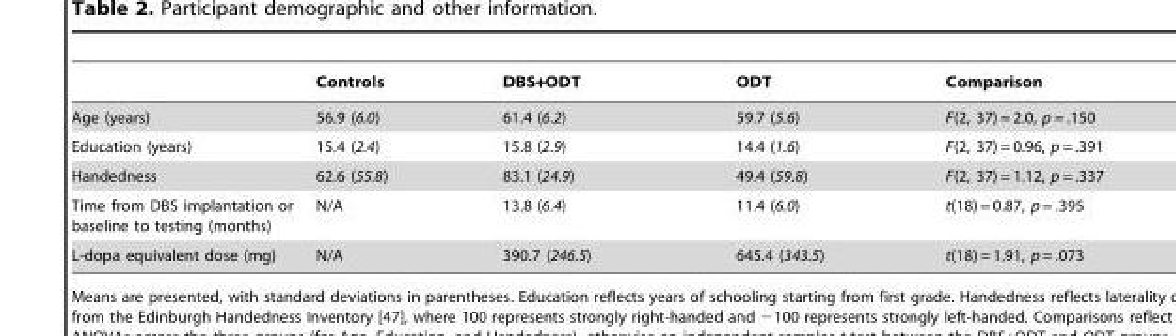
<table><thead><tr><td></td><td>Controls</td><td>DBS+ODT</td><td>ODT</td><td>Comparison</td></tr></thead><tbody><tr><td>Age (years)</td><td>56.9 (6.0)</td><td>61.4 (6.2)</td><td>59.7 (5.6)</td><td>F(2, 37) = 2.0, p = .150</td></tr><tr><td>Education (years)</td><td>15.4 (2.4)</td><td>15.8 (2.9)</td><td>14.4 (1.6)</td><td>F(2, 37) = 0.96, p = .391</td></tr><tr><td>Handedness</td><td>62.6 (55.8)</td><td>83.1 (24.9)</td><td>49.4 (59.8)</td><td>F(2, 37) = 1.12, p = .337</td></tr><tr><td>Time from DBS implantation or baseline to testing (months)</td><td>N/A</td><td>13.8 (6.4)</td><td>11.4 (6.0)</td><td>t(18) = 0.87, p = .395</td></tr><tr><td>L-dopa equivalent dose (mg)</td><td>N/A</td><td>390.7 (246.5)</td><td>645.4 (343.5)</td><td>t(18) = 1.91, p = .073</td></tr></tbody></table>